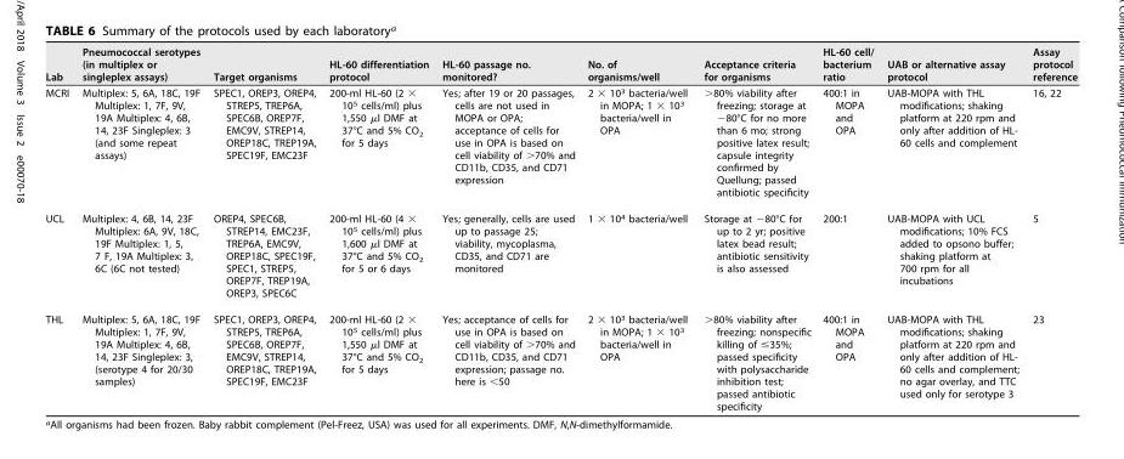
<table><thead><tr><td>Lab</td><td>Pneumococcal serotypes (in multiplex or singleplex assays)</td><td>Target organisms</td><td>HL-60 differentiation protocol</td><td>HL-60 passage no. monitored?</td><td>No. of organisms/well</td><td>Acceptance criteria for organisms</td><td>HL-60 cell/ bacterium ratio</td><td>UAB or alternative assay protocol</td><td>Assay protocol reference</td></tr></thead><tbody><tr><td>MCRI</td><td>Multiplex: 5, 6A, 18C, 19F Multiplex: 1, 7F, 9V, 19A Multiplex: 4, 6B, 14, 23F Singleplex: 3 (and some repeat assays)</td><td>SPEC1, OREP3, OREP4, STREP5, TREP6A, SPEC6B, OREP7F, EMC9V, STREP14, OREP18C, TREP19A, SPEC19F, EMC23F</td><td>200-ml HL-60 (2 × 10<sup>5</sup> cells/ml) plus 1,550 µl DMF at 37°C and 5% CO<sub>2</sub> for 5 days</td><td>Yes; after 19 or 20 passages, cells are not used in MOPA or OPA; acceptance of cells for use in OPA is based on cell viability of &gt;70% and CD11b, CD35, and CD71 expression</td><td>2 × 10<sup>3</sup> bacteria/well in MOPA; 1 × 10<sup>3</sup> bacteria/well in OPA</td><td>&gt;80% viability after freezing; storage at −80°C for no more than 6 mo; strong positive latex result; capsule integrity confirmed by Quellung; passed antibiotic specificity</td><td>400:1 in MOPA and OPA</td><td>UAB-MOPA with THL modifications; shaking platform at 220 rpm and only after addition of HL- 60 cells and complement</td><td>16, 22</td></tr><tr><td>UCL</td><td>Multiplex: 4, 6B, 14, 23F Multiplex: 6A, 9V, 18C, 19F Multiplex: 1, 5, 7 F, 19A Multiplex: 3, 6C (6C not tested)</td><td>OREP4, SPEC6B, STREP14, EMC23F, TREP6A, EMC9V, OREP18C, SPEC19F, SPEC1, STREP5, OREP7F, TREP19A, OREP3, SPEC6C</td><td>200-ml HL-60 (4 × 10<sup>5</sup> cells/ml) plus 1,600 µl DMF at 37°C and 5% CO<sub>2</sub> for 5 or 6 days</td><td>Yes; generally, cells are used up to passage 25; viability, mycoplasma, CD35, and CD71 are monitored</td><td>1 × 10<sup>4</sup> bacteria/well</td><td>Storage at −80°C for up to 2 yr; positive latex bead result; antibiotic sensitivity is also assessed</td><td>200:1</td><td>UAB-MOPA with UCL modifications; 10% FCS added to opsono buffer; shaking platform at 700 rpm for all incubations</td><td>5</td></tr><tr><td>THL</td><td>Multiplex: 5, 6A, 18C, 19F Multiplex: 1, 7F, 9V, 19A Multiplex: 4, 6B, 14, 23F Singleplex: 3, (serotype 4 for 20/30 samples)</td><td>SPEC1, OREP3, OREP4, STREP5, TREP6A, SPEC6B, OREP7F, EMC9V, STREP14, OREP18C, TREP19A, SPEC19F, EMC23F</td><td>200-ml HL-60 (2 × 10<sup>5</sup> cells/ml) plus 1,550 µl DMF at 37°C and 5% CO<sub>2</sub> for 5 days</td><td>Yes; acceptance of cells for use in OPA is based on cell viability of &gt;70% and CD11b, CD35, and CD71 expression; passage no. here is &lt;50</td><td>2 × 10<sup>3</sup> bacteria/well in MOPA; 1 × 10<sup>3</sup> bacteria/well in OPA</td><td>&gt;80% viability after freezing; nonspecific killing of ≤35%; passed specificity with polysaccharide inhibition test; passed antibiotic specificity</td><td>400:1 in MOPA and OPA</td><td>UAB-MOPA with THL modifications; shaking platform at 220 rpm and only after addition of HL- 60 cells and complement; no agar overlay, and TTC used only for serotype 3</td><td>23</td></tr></tbody></table>